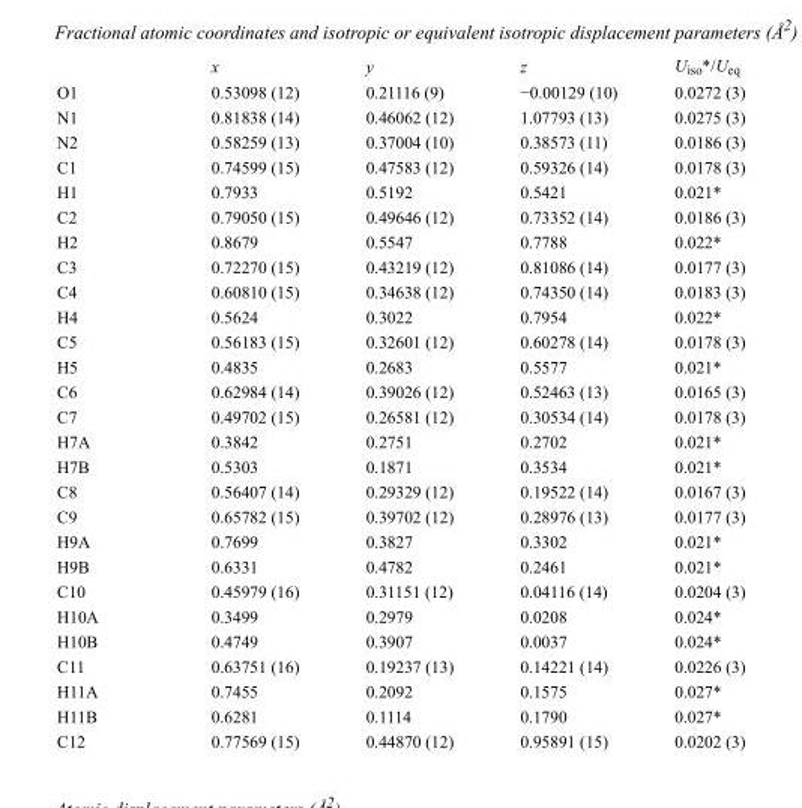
<table><thead><tr><td></td><td>x</td><td>y</td><td>z</td><td>U<sub>iso</sub>*/U<sub>eq</sub></td></tr></thead><tbody><tr><td>O1</td><td>0.53098 (12)</td><td>0.21116 (9)</td><td>−0.00129 (10)</td><td>0.0272 (3)</td></tr><tr><td>N1</td><td>0.81838 (14)</td><td>0.46062 (12)</td><td>1.07793 (13)</td><td>0.0275 (3)</td></tr><tr><td>N2</td><td>0.58259 (13)</td><td>0.37004 (10)</td><td>0.38573 (11)</td><td>0.0186 (3)</td></tr><tr><td>C1</td><td>0.74599 (15)</td><td>0.47583 (12)</td><td>0.59326 (14)</td><td>0.0178 (3)</td></tr><tr><td>H1</td><td>0.7933</td><td>0.5192</td><td>0.5421</td><td>0.021*</td></tr><tr><td>C2</td><td>0.79050 (15)</td><td>0.49646 (12)</td><td>0.73352 (14)</td><td>0.0186 (3)</td></tr><tr><td>H2</td><td>0.8679</td><td>0.5547</td><td>0.7788</td><td>0.022*</td></tr><tr><td>C3</td><td>0.72270 (15)</td><td>0.43219 (12)</td><td>0.81086 (14)</td><td>0.0177 (3)</td></tr><tr><td>C4</td><td>0.60810 (15)</td><td>0.34638 (12)</td><td>0.74350 (14)</td><td>0.0183 (3)</td></tr><tr><td>H4</td><td>0.5624</td><td>0.3022</td><td>0.7954</td><td>0.022*</td></tr><tr><td>C5</td><td>0.56183 (15)</td><td>0.32601 (12)</td><td>0.60278 (14)</td><td>0.0178 (3)</td></tr><tr><td>H5</td><td>0.4835</td><td>0.2683</td><td>0.5577</td><td>0.021*</td></tr><tr><td>C6</td><td>0.62984 (14)</td><td>0.39026 (12)</td><td>0.52463 (13)</td><td>0.0165 (3)</td></tr><tr><td>C7</td><td>0.49702 (15)</td><td>0.26581 (12)</td><td>0.30534 (14)</td><td>0.0178 (3)</td></tr><tr><td>H7A</td><td>0.3842</td><td>0.2751</td><td>0.2702</td><td>0.021*</td></tr><tr><td>H7B</td><td>0.5303</td><td>0.1871</td><td>0.3534</td><td>0.021*</td></tr><tr><td>C8</td><td>0.56407 (14)</td><td>0.29329 (12)</td><td>0.19522 (14)</td><td>0.0167 (3)</td></tr><tr><td>C9</td><td>0.65782 (15)</td><td>0.39702 (12)</td><td>0.28976 (13)</td><td>0.0177 (3)</td></tr><tr><td>H9A</td><td>0.7699</td><td>0.3827</td><td>0.3302</td><td>0.021*</td></tr><tr><td>H9B</td><td>0.6331</td><td>0.4782</td><td>0.2461</td><td>0.021*</td></tr><tr><td>C10</td><td>0.45979 (16)</td><td>0.31151 (12)</td><td>0.04116 (14)</td><td>0.0204 (3)</td></tr><tr><td>H10A</td><td>0.3499</td><td>0.2979</td><td>0.0208</td><td>0.024*</td></tr><tr><td>H10B</td><td>0.4749</td><td>0.3907</td><td>0.0037</td><td>0.024*</td></tr><tr><td>C11</td><td>0.63751 (16)</td><td>0.19237 (13)</td><td>0.14221 (14)</td><td>0.0226 (3)</td></tr><tr><td>H11A</td><td>0.7455</td><td>0.2092</td><td>0.1575</td><td>0.027*</td></tr><tr><td>H11B</td><td>0.6281</td><td>0.1114</td><td>0.1790</td><td>0.027*</td></tr><tr><td>C12</td><td>0.77569 (15)</td><td>0.44870 (12)</td><td>0.95891 (15)</td><td>0.0202 (3)</td></tr></tbody></table>